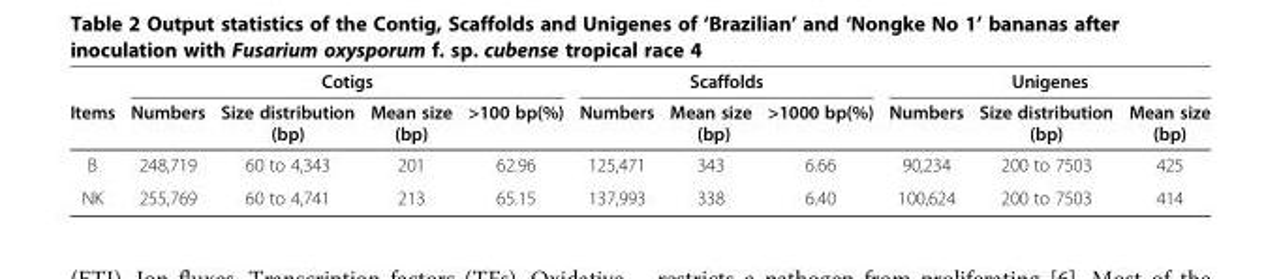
<table><thead><tr><td rowspan="2">Items</td><td colspan="4">Cotigs</td><td colspan="3">Scaffolds</td><td colspan="3">Unigenes</td></tr><tr><td>Numbers</td><td>Size distribution (bp)</td><td>Mean size (bp)</td><td>&gt;100 bp(%)</td><td>Numbers</td><td>Mean size (bp)</td><td>&gt;1000 bp(%)</td><td>Numbers</td><td>Size distribution (bp)</td><td>Mean size (bp)</td></tr></thead><tbody><tr><td>B</td><td>248,719</td><td>60 to 4,343</td><td>201</td><td>62.96</td><td>125,471</td><td>343</td><td>6.66</td><td>90,234</td><td>200 to 7503</td><td>425</td></tr><tr><td>NK</td><td>255,769</td><td>60 to 4,741</td><td>213</td><td>65.15</td><td>137,993</td><td>338</td><td>6.40</td><td>100,624</td><td>200 to 7503</td><td>414</td></tr></tbody></table>